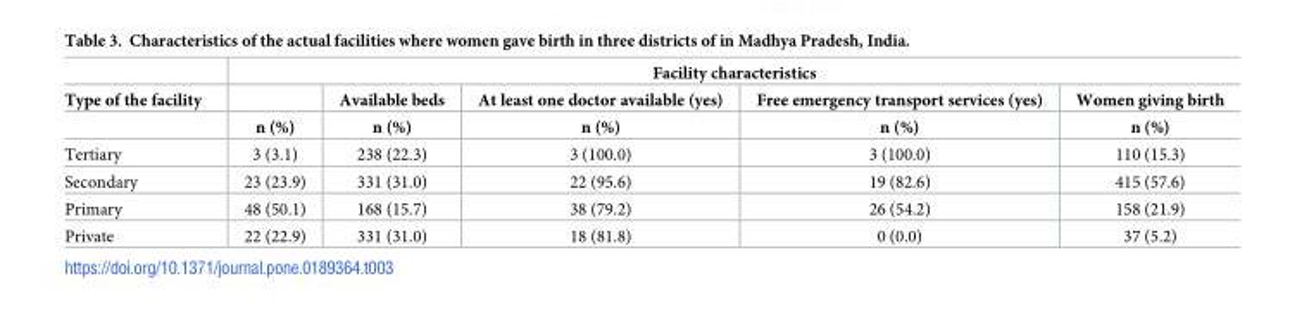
<table><thead><tr><td rowspan="3">Type of the facility</td><td colspan="5">Facility characteristics</td></tr><tr><td rowspan="2">n (%)</td><td rowspan="2">Available beds n (%)</td><td rowspan="2">At least one doctor available (yes) n (%)</td><td rowspan="2">Free emergency transport services (yes) n (%)</td><td rowspan="2">Women giving birth n (%)</td></tr><tr></tr></thead><tbody><tr><td>Tertiary</td><td>3 (3.1)</td><td>238 (22.3)</td><td>3 (100.0)</td><td>3 (100.0)</td><td>110 (15.3)</td></tr><tr><td>Secondary</td><td>23 (23.9)</td><td>331 (31.0)</td><td>22 (95.6)</td><td>19 (82.6)</td><td>415 (57.6)</td></tr><tr><td>Primary</td><td>48 (50.1)</td><td>168 (15.7)</td><td>38 (79.2)</td><td>26 (54.2)</td><td>158 (21.9)</td></tr><tr><td>Private</td><td>22 (22.9)</td><td>331 (31.0)</td><td>18 (81.8)</td><td>0 (0.0)</td><td>37 (5.2)</td></tr></tbody></table>